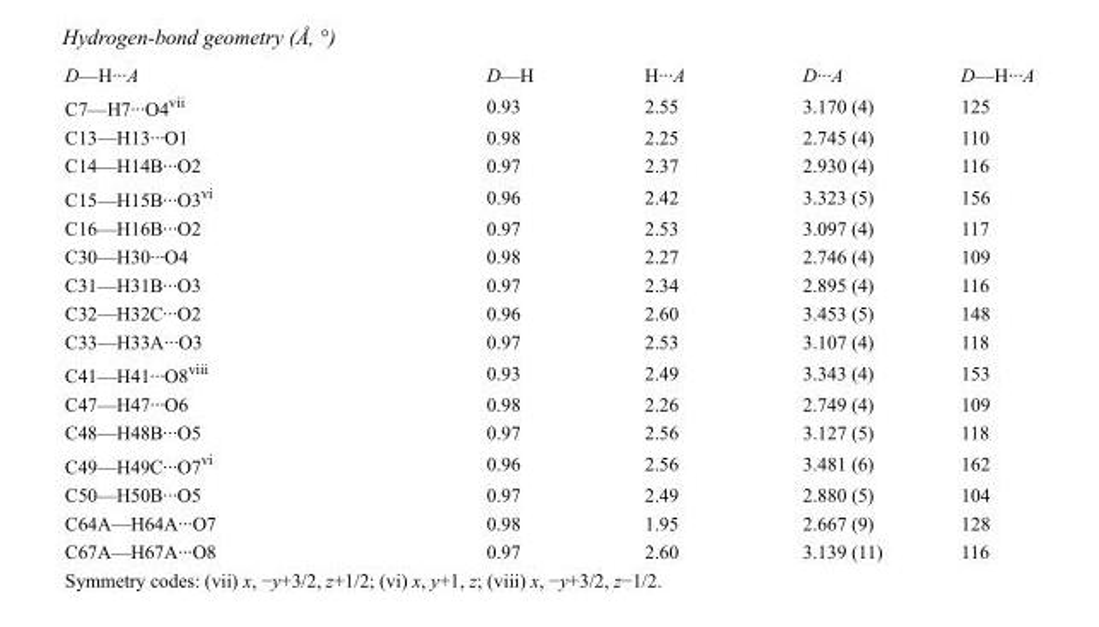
<table><tbody><tr><td>D—H···A</td><td>D—H</td><td>H···A</td><td>D···A</td><td>D—H···A</td></tr><tr><td>C7—H7···O4<sup>vii</sup></td><td>0.93</td><td>2.55</td><td>3.170 (4)</td><td>125</td></tr><tr><td>C13—H13···O1</td><td>0.98</td><td>2.25</td><td>2.745 (4)</td><td>110</td></tr><tr><td>C14—H14B···O2</td><td>0.97</td><td>2.37</td><td>2.930 (4)</td><td>116</td></tr><tr><td>C15—H15B···O3<sup>vi</sup></td><td>0.96</td><td>2.42</td><td>3.323 (5)</td><td>156</td></tr><tr><td>C16—H16B···O2</td><td>0.97</td><td>2.53</td><td>3.097 (4)</td><td>117</td></tr><tr><td>C30—H30···O4</td><td>0.98</td><td>2.27</td><td>2.746 (4)</td><td>109</td></tr><tr><td>C31—H31B···O3</td><td>0.97</td><td>2.34</td><td>2.895 (4)</td><td>116</td></tr><tr><td>C32—H32C···O2</td><td>0.96</td><td>2.60</td><td>3.453 (5)</td><td>148</td></tr><tr><td>C33—H33A···O3</td><td>0.97</td><td>2.53</td><td>3.107 (4)</td><td>118</td></tr><tr><td>C41—H41···O8<sup>viii</sup></td><td>0.93</td><td>2.49</td><td>3.343 (4)</td><td>153</td></tr><tr><td>C47—H47···O6</td><td>0.98</td><td>2.26</td><td>2.749 (4)</td><td>109</td></tr><tr><td>C48—H48B···O5</td><td>0.97</td><td>2.56</td><td>3.127 (5)</td><td>118</td></tr><tr><td>C49—H49C···O7<sup>vi</sup></td><td>0.96</td><td>2.56</td><td>3.481 (6)</td><td>162</td></tr><tr><td>C50—H50B···O5</td><td>0.97</td><td>2.49</td><td>2.880 (5)</td><td>104</td></tr><tr><td>C64A—H64A···O7</td><td>0.98</td><td>1.95</td><td>2.667 (9)</td><td>128</td></tr><tr><td>C67A—H67A···O8</td><td>0.97</td><td>2.60</td><td>3.139 (11)</td><td>116</td></tr></tbody></table>